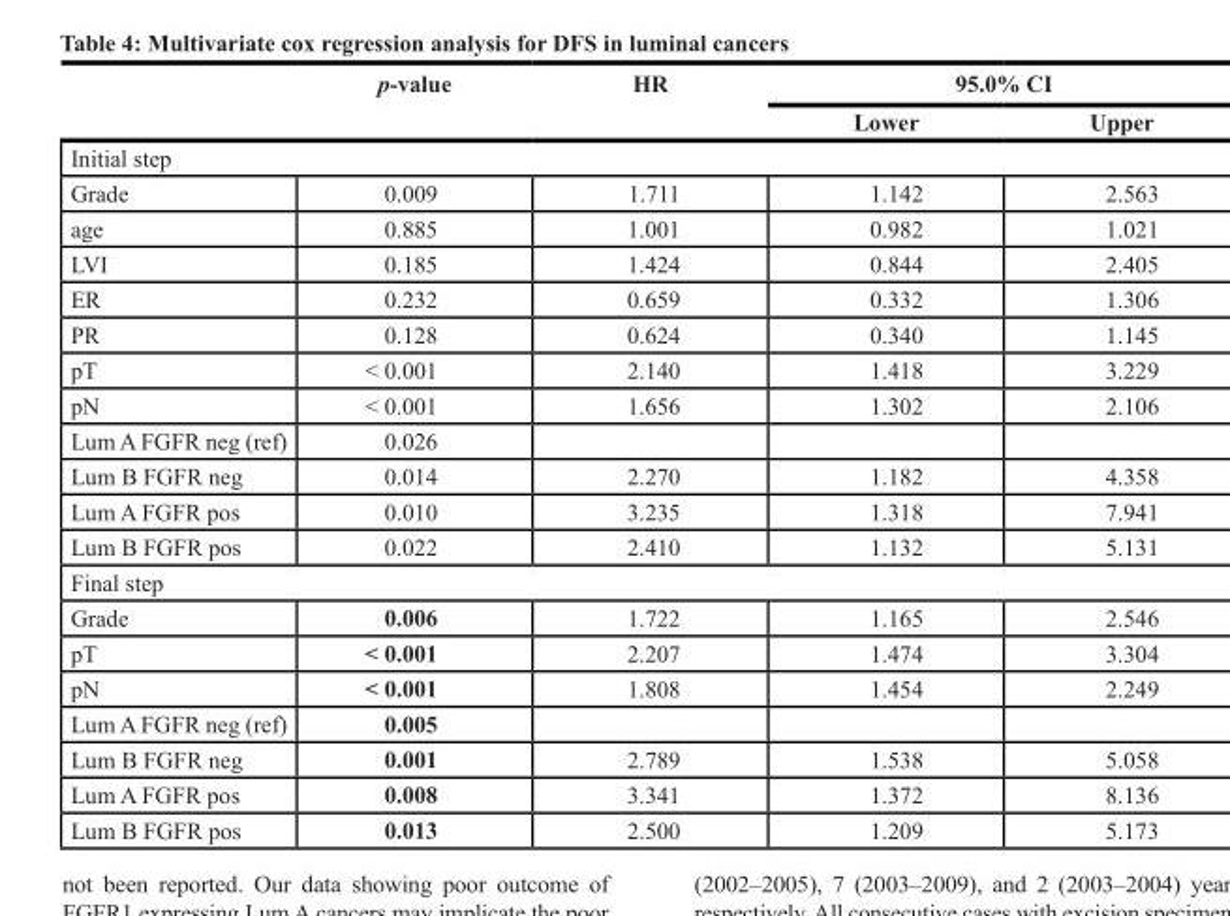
<table><thead><tr><td rowspan="2"></td><td rowspan="2">p-value</td><td rowspan="2">HR</td><td colspan="2">95.0% CI</td></tr><tr><td>Lower</td><td>Upper</td></tr></thead><tbody><tr><td colspan="5">Initial step</td></tr><tr><td>Grade</td><td>0.009</td><td>1.711</td><td>1.142</td><td>2.563</td></tr><tr><td>age</td><td>0.885</td><td>1.001</td><td>0.982</td><td>1.021</td></tr><tr><td>LVI</td><td>0.185</td><td>1.424</td><td>0.844</td><td>2.405</td></tr><tr><td>ER</td><td>0.232</td><td>0.659</td><td>0.332</td><td>1.306</td></tr><tr><td>PR</td><td>0.128</td><td>0.624</td><td>0.340</td><td>1.145</td></tr><tr><td>pT</td><td>&lt; 0.001</td><td>2.140</td><td>1.418</td><td>3.229</td></tr><tr><td>pN</td><td>&lt; 0.001</td><td>1.656</td><td>1.302</td><td>2.106</td></tr><tr><td>Lum A FGFR neg (ref)</td><td>0.026</td><td></td><td></td><td></td></tr><tr><td>Lum B FGFR neg</td><td>0.014</td><td>2.270</td><td>1.182</td><td>4.358</td></tr><tr><td>Lum A FGFR pos</td><td>0.010</td><td>3.235</td><td>1.318</td><td>7.941</td></tr><tr><td>Lum B FGFR pos</td><td>0.022</td><td>2.410</td><td>1.132</td><td>5.131</td></tr><tr><td colspan="5">Final step</td></tr><tr><td>Grade</td><td>0.006</td><td>1.722</td><td>1.165</td><td>2.546</td></tr><tr><td>pT</td><td>&lt; 0.001</td><td>2.207</td><td>1.474</td><td>3.304</td></tr><tr><td>pN</td><td>&lt; 0.001</td><td>1.808</td><td>1.454</td><td>2.249</td></tr><tr><td>Lum A FGFR neg (ref)</td><td>0.005</td><td></td><td></td><td></td></tr><tr><td>Lum B FGFR neg</td><td>0.001</td><td>2.789</td><td>1.538</td><td>5.058</td></tr><tr><td>Lum A FGFR pos</td><td>0.008</td><td>3.341</td><td>1.372</td><td>8.136</td></tr><tr><td>Lum B FGFR pos</td><td>0.013</td><td>2.500</td><td>1.209</td><td>5.173</td></tr></tbody></table>